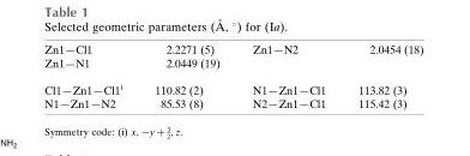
<table><tbody><tr><td>Zn1—Cl1</td><td>2.2271 (5)</td><td>Zn1—N2</td><td>2.0454 (18)</td></tr><tr><td>Zn1—N1</td><td>2.0449 (19)</td><td></td><td></td></tr><tr><td>Cl1—Zn1—Cl1<sup>i</sup></td><td>110.82 (2)</td><td>N1—Zn1—Cl1</td><td>113.82 (3)</td></tr><tr><td>N1—Zn1—N2</td><td>85.53 (8)</td><td>N2—Zn1—Cl1</td><td>115.42 (3)</td></tr></tbody></table>